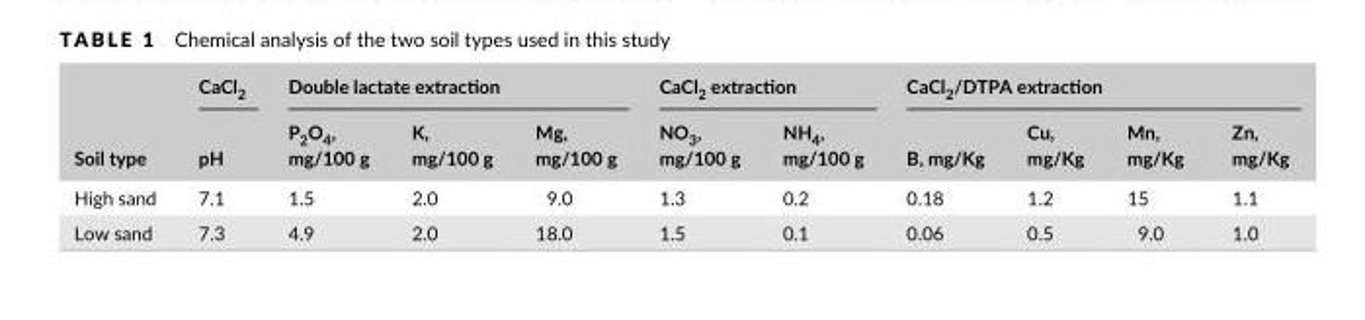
<table><thead><tr><td rowspan="2">Soil type</td><td rowspan="2">CaCl<sub>2</sub> pH</td><td colspan="3">Double lactate extraction</td><td colspan="2">CaCl<sub>2</sub> extraction</td><td colspan="4">CaCl<sub>2</sub>/DTPA extraction</td></tr><tr><td>P<sub>2</sub>O<sub>4</sub>, mg/100 g</td><td>K, mg/100 g</td><td>Mg, mg/100 g</td><td>NO<sub>3</sub>, mg/100 g</td><td>NH<sub>4</sub>, mg/100 g</td><td>B, mg/Kg</td><td>Cu, mg/Kg</td><td>Mn, mg/Kg</td><td>Zn, mg/Kg</td></tr></thead><tbody><tr><td>High sand</td><td>7.1</td><td>1.5</td><td>2.0</td><td>9.0</td><td>1.3</td><td>0.2</td><td>0.18</td><td>1.2</td><td>15</td><td>1.1</td></tr><tr><td>Low sand</td><td>7.3</td><td>4.9</td><td>2.0</td><td>18.0</td><td>1.5</td><td>0.1</td><td>0.06</td><td>0.5</td><td>9.0</td><td>1.0</td></tr></tbody></table>